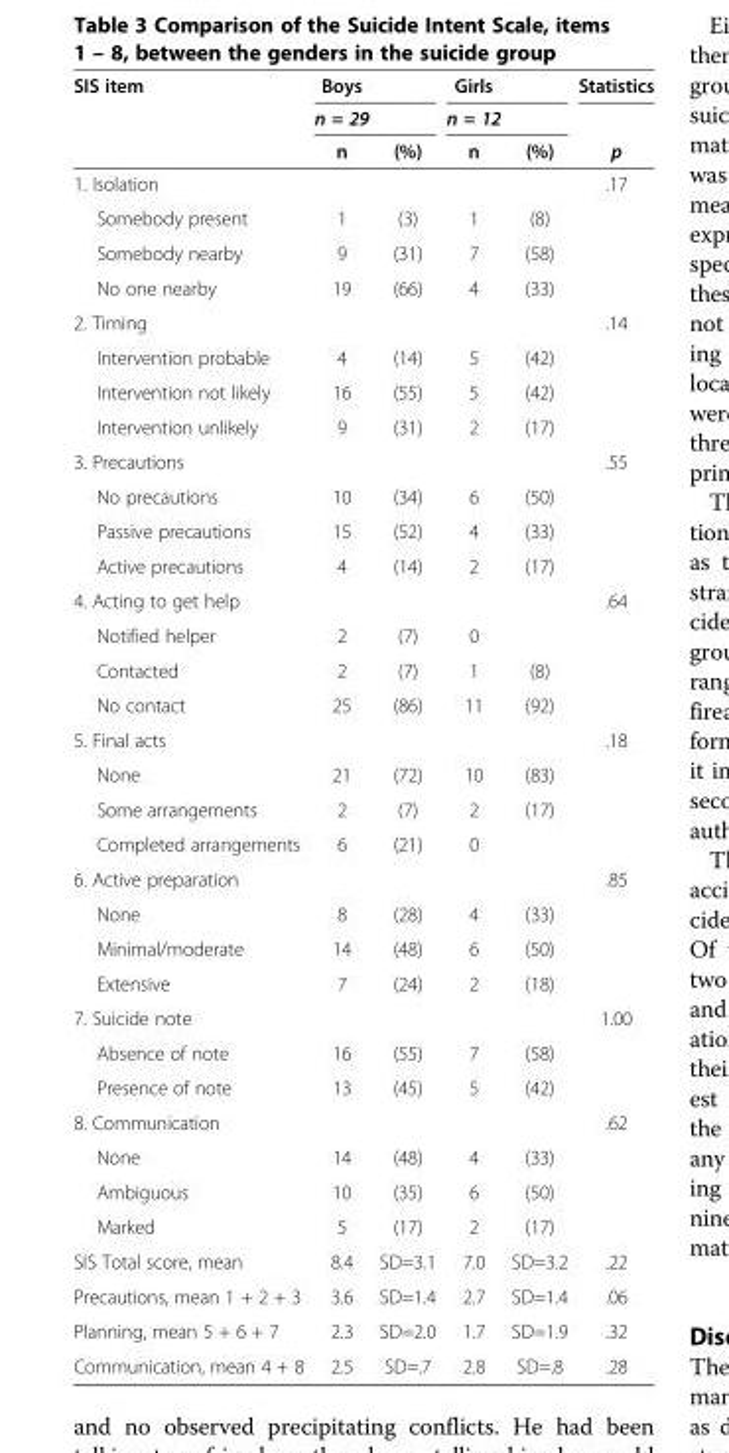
<table><thead><tr><td rowspan="3">SIS item</td><td rowspan="3">Boys n = 29 n</td><td rowspan="3">(%)</td><td rowspan="3">Girls n = 12 n</td><td rowspan="3">(%)</td><td rowspan="3">Statistics p</td></tr><tr></tr><tr></tr></thead><tbody><tr><td>1. Isolation</td><td></td><td></td><td></td><td></td><td>.17</td></tr><tr><td>Somebody present</td><td>1</td><td>(3)</td><td>1</td><td>(8)</td><td></td></tr><tr><td>Somebody nearby</td><td>9</td><td>(31)</td><td>7</td><td>(58)</td><td></td></tr><tr><td>No one nearby</td><td>19</td><td>(66)</td><td>4</td><td>(33)</td><td></td></tr><tr><td>2. Timing</td><td></td><td></td><td></td><td></td><td>.14</td></tr><tr><td>Intervention probable</td><td>4</td><td>(14)</td><td>5</td><td>(42)</td><td></td></tr><tr><td>Intervention not likely</td><td>16</td><td>(55)</td><td>5</td><td>(42)</td><td></td></tr><tr><td>Intervention unlikely</td><td>9</td><td>(31)</td><td>2</td><td>(17)</td><td></td></tr><tr><td>3. Precautions</td><td></td><td></td><td></td><td></td><td>.55</td></tr><tr><td>No precautions</td><td>10</td><td>(34)</td><td>6</td><td>(50)</td><td></td></tr><tr><td>Passive precautions</td><td>15</td><td>(52)</td><td>4</td><td>(33)</td><td></td></tr><tr><td>Active precautions</td><td>4</td><td>(14)</td><td>2</td><td>(17)</td><td></td></tr><tr><td>4. Acting to get help</td><td></td><td></td><td></td><td></td><td>.64</td></tr><tr><td>Notified helper</td><td>2</td><td>(7)</td><td>0</td><td></td><td></td></tr><tr><td>Contacted</td><td>2</td><td>(7)</td><td>1</td><td>(8)</td><td></td></tr><tr><td>No contact</td><td>25</td><td>(86)</td><td>11</td><td>(92)</td><td></td></tr><tr><td>5. Final acts</td><td></td><td></td><td></td><td></td><td>.18</td></tr><tr><td>None</td><td>21</td><td>(72)</td><td>10</td><td>(83)</td><td></td></tr><tr><td>Some arrangements</td><td>2</td><td>(7)</td><td>2</td><td>(17)</td><td></td></tr><tr><td>Completed arrangements</td><td>6</td><td>(21)</td><td>0</td><td></td><td></td></tr><tr><td>6. Active preparation</td><td></td><td></td><td></td><td></td><td>.85</td></tr><tr><td>None</td><td>8</td><td>(28)</td><td>4</td><td>(33)</td><td></td></tr><tr><td>Minimal/moderate</td><td>14</td><td>(48)</td><td>6</td><td>(50)</td><td></td></tr><tr><td>Extensive</td><td>7</td><td>(24)</td><td>2</td><td>(18)</td><td></td></tr><tr><td>7. Suicide note</td><td></td><td></td><td></td><td></td><td>1.00</td></tr><tr><td>Absence of note</td><td>16</td><td>(55)</td><td>7</td><td>(58)</td><td></td></tr><tr><td>Presence of note</td><td>13</td><td>(45)</td><td>5</td><td>(42)</td><td></td></tr><tr><td>8. Communication</td><td></td><td></td><td></td><td></td><td>.62</td></tr><tr><td>None</td><td>14</td><td>(48)</td><td>4</td><td>(33)</td><td></td></tr><tr><td>Ambiguous</td><td>10</td><td>(35)</td><td>6</td><td>(50)</td><td></td></tr><tr><td>Marked</td><td>5</td><td>(17)</td><td>2</td><td>(17)</td><td></td></tr><tr><td>SIS Total score, mean</td><td>8.4</td><td>SD=3.1</td><td>7.0</td><td>SD=3.2</td><td>.22</td></tr><tr><td>Precautions, mean 1 + 2 + 3</td><td>3.6</td><td>SD=1.4</td><td>2.7</td><td>SD=1.4</td><td>.06</td></tr><tr><td>Planning, mean 5 + 6 + 7</td><td>2.3</td><td>SD=2.0</td><td>1.7</td><td>SD=1.9</td><td>.32</td></tr><tr><td>Communication, mean 4 + 8</td><td>2.5</td><td>SD=.7</td><td>2.8</td><td>SD=.8</td><td>.28</td></tr></tbody></table>